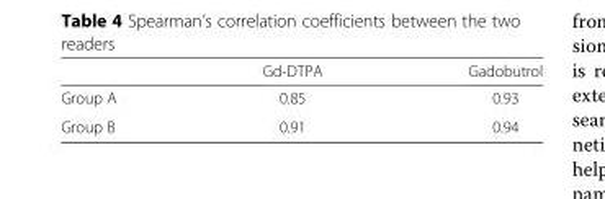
<table><thead><tr><td></td><td>Gd-DTPA</td><td>Gadobutrol</td></tr></thead><tbody><tr><td>Group A</td><td>0.85</td><td>0.93</td></tr><tr><td>Group B</td><td>0.91</td><td>0.94</td></tr></tbody></table>